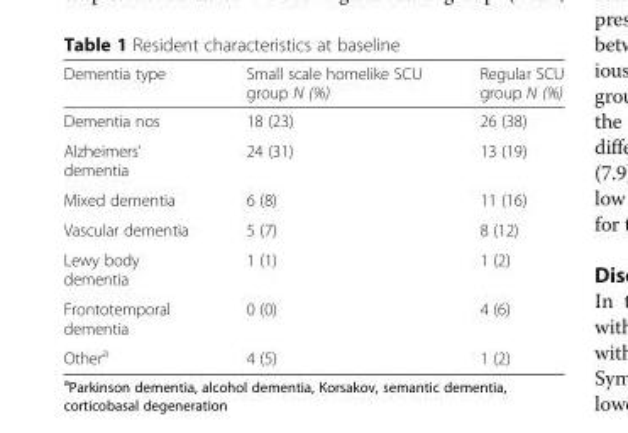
<table><thead><tr><td>Dementia type</td><td>Small scale homelike SCU group N (%)</td><td>Regular SCU group N (%)</td></tr></thead><tbody><tr><td>Dementia nos</td><td>18 (23)</td><td>26 (38)</td></tr><tr><td>Alzheimers’ dementia</td><td>24 (31)</td><td>13 (19)</td></tr><tr><td>Mixed dementia</td><td>6 (8)</td><td>11 (16)</td></tr><tr><td>Vascular dementia</td><td>5 (7)</td><td>8 (12)</td></tr><tr><td>Lewy body dementia</td><td>1 (1)</td><td>1 (2)</td></tr><tr><td>Frontotemporal dementia</td><td>0 (0)</td><td>4 (6)</td></tr><tr><td>Other<sup>a</sup></td><td>4 (5)</td><td>1 (2)</td></tr></tbody></table>